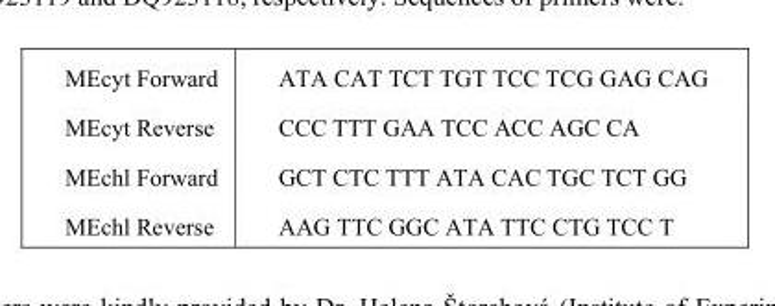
<table><tbody><tr><td>MEcyt Forward</td><td>ATA CAT TCT TGT TCC TCG GAG CAG</td></tr><tr><td>MEcyt Reverse</td><td>CCC TTT GAA TCC ACC AGC CA</td></tr><tr><td>MEchl Forward</td><td>GCT CTC TTT ATA CAC TGC TCT GG</td></tr><tr><td>MEchl Reverse</td><td>AAG TTC GGC ATA TTC CTG TCC T</td></tr></tbody></table>